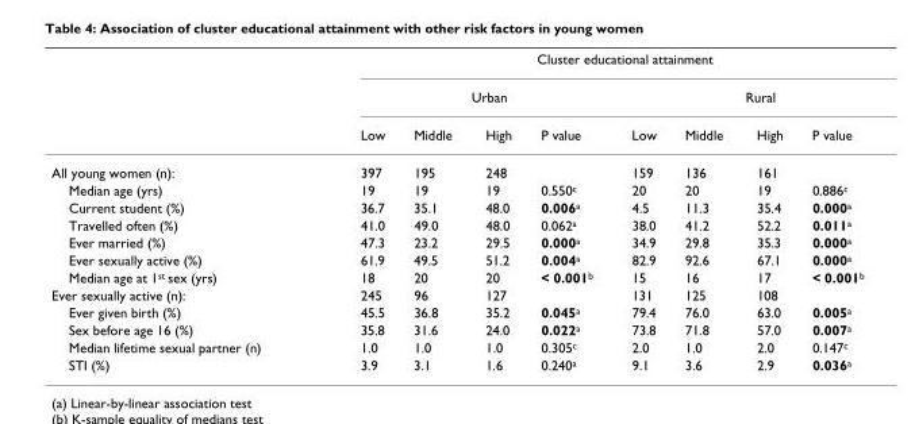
<table><thead><tr><td rowspan="3"></td><td colspan="8">Cluster educational attainment</td></tr><tr><td colspan="4">Urban</td><td colspan="4">Rural</td></tr><tr><td>Low</td><td>Middle</td><td>High</td><td>P value</td><td>Low</td><td>Middle</td><td>High</td><td>P value</td></tr></thead><tbody><tr><td>All young women (n):</td><td>397</td><td>195</td><td>248</td><td></td><td>159</td><td>136</td><td>161</td><td></td></tr><tr><td>Median age (yrs)</td><td>19</td><td>19</td><td>19</td><td>0.550<sup>c</sup></td><td>20</td><td>20</td><td>19</td><td>0.886<sup>c</sup></td></tr><tr><td>Current student (%)</td><td>36.7</td><td>35.1</td><td>48.0</td><td>0.006<sup>a</sup></td><td>4.5</td><td>11.3</td><td>35.4</td><td>0.000<sup>a</sup></td></tr><tr><td>Travelled often (%)</td><td>41.0</td><td>49.0</td><td>48.0</td><td>0.062<sup>a</sup></td><td>38.0</td><td>41.2</td><td>52.2</td><td>0.011<sup>a</sup></td></tr><tr><td>Ever married (%)</td><td>47.3</td><td>23.2</td><td>29.5</td><td>0.000<sup>a</sup></td><td>34.9</td><td>29.8</td><td>35.3</td><td>0.000<sup>a</sup></td></tr><tr><td>Ever sexually active (%)</td><td>61.9</td><td>49.5</td><td>51.2</td><td>0.004<sup>a</sup></td><td>82.9</td><td>92.6</td><td>67.1</td><td>0.000<sup>a</sup></td></tr><tr><td>Median age at 1<sup>st</sup> sex (yrs)</td><td>18</td><td>20</td><td>20</td><td>&lt; 0.001<sup>b</sup></td><td>15</td><td>16</td><td>17</td><td>&lt; 0.001<sup>b</sup></td></tr><tr><td>Ever sexually active (n):</td><td>245</td><td>96</td><td>127</td><td></td><td>131</td><td>125</td><td>108</td><td></td></tr><tr><td>Ever given birth (%)</td><td>45.5</td><td>36.8</td><td>35.2</td><td>0.045<sup>a</sup></td><td>79.4</td><td>76.0</td><td>63.0</td><td>0.005<sup>a</sup></td></tr><tr><td>Sex before age 16 (%)</td><td>35.8</td><td>31.6</td><td>24.0</td><td>0.022<sup>a</sup></td><td>73.8</td><td>71.8</td><td>57.0</td><td>0.007<sup>a</sup></td></tr><tr><td>Median lifetime sexual partner (n)</td><td>1.0</td><td>1.0</td><td>1.0</td><td>0.305<sup>c</sup></td><td>2.0</td><td>1.0</td><td>2.0</td><td>0.147<sup>c</sup></td></tr><tr><td>STI (%)</td><td>3.9</td><td>3.1</td><td>1.6</td><td>0.240<sup>a</sup></td><td>9.1</td><td>3.6</td><td>2.9</td><td>0.036<sup>a</sup></td></tr></tbody></table>